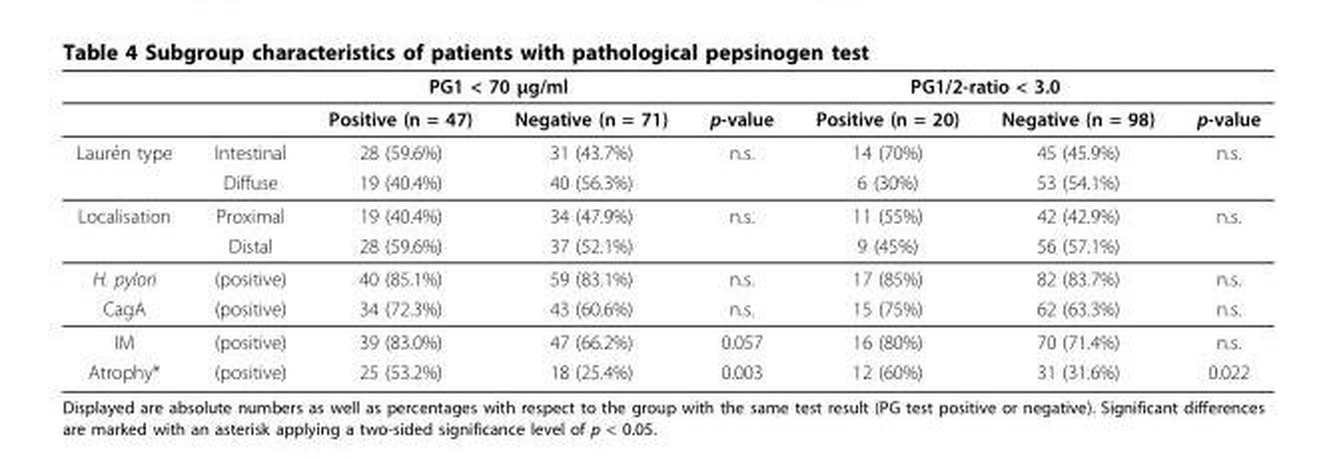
<table><thead><tr><td rowspan="2"></td><td rowspan="2"></td><td colspan="2">PG1 &lt; 70 μg/ml</td><td rowspan="2">p-value</td><td colspan="2">PG1/2-ratio &lt; 3.0</td><td rowspan="2">p-value</td></tr><tr><td>Positive (n = 47)</td><td>Negative (n = 71)</td><td>Positive (n = 20)</td><td>Negative (n = 98)</td></tr></thead><tbody><tr><td rowspan="2">Laurén type</td><td>Intestinal</td><td>28 (59.6%)</td><td>31 (43.7%)</td><td>n.s.</td><td>14 (70%)</td><td>45 (45.9%)</td><td>n.s.</td></tr><tr><td>Diffuse</td><td>19 (40.4%)</td><td>40 (56.3%)</td><td></td><td>6 (30%)</td><td>53 (54.1%)</td><td></td></tr><tr><td rowspan="2">Localisation</td><td>Proximal</td><td>19 (40.4%)</td><td>34 (47.9%)</td><td>n.s.</td><td>11 (55%)</td><td>42 (42.9%)</td><td>n.s.</td></tr><tr><td>Distal</td><td>28 (59.6%)</td><td>37 (52.1%)</td><td></td><td>9 (45%)</td><td>56 (57.1%)</td><td></td></tr><tr><td>H. pylori</td><td>(positive)</td><td>40 (85.1%)</td><td>59 (83.1%)</td><td>n.s.</td><td>17 (85%)</td><td>82 (83.7%)</td><td>n.s.</td></tr><tr><td>CagA</td><td>(positive)</td><td>34 (72.3%)</td><td>43 (60.6%)</td><td>n.s.</td><td>15 (75%)</td><td>62 (63.3%)</td><td>n.s.</td></tr><tr><td>IM</td><td>(positive)</td><td>39 (83.0%)</td><td>47 (66.2%)</td><td>0.057</td><td>16 (80%)</td><td>70 (71.4%)</td><td>n.s.</td></tr><tr><td>Atrophy*</td><td>(positive)</td><td>25 (53.2%)</td><td>18 (25.4%)</td><td>0.003</td><td>12 (60%)</td><td>31 (31.6%)</td><td>0.022</td></tr></tbody></table>